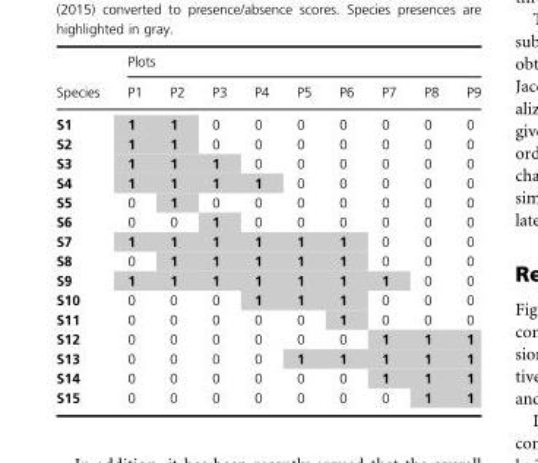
<table><thead><tr><td rowspan="2">Species</td><td colspan="9">Plots</td></tr><tr><td>P1</td><td>P2</td><td>P3</td><td>P4</td><td>P5</td><td>P6</td><td>P7</td><td>P8</td><td>P9</td></tr></thead><tbody><tr><td>S1</td><td>1</td><td>1</td><td>0</td><td>0</td><td>0</td><td>0</td><td>0</td><td>0</td><td>0</td></tr><tr><td>S2</td><td>1</td><td>1</td><td>0</td><td>0</td><td>0</td><td>0</td><td>0</td><td>0</td><td>0</td></tr><tr><td>S3</td><td>1</td><td>1</td><td>1</td><td>0</td><td>0</td><td>0</td><td>0</td><td>0</td><td>0</td></tr><tr><td>S4</td><td>1</td><td>1</td><td>1</td><td>1</td><td>0</td><td>0</td><td>0</td><td>0</td><td>0</td></tr><tr><td>S5</td><td>0</td><td>1</td><td>0</td><td>0</td><td>0</td><td>0</td><td>0</td><td>0</td><td>0</td></tr><tr><td>S6</td><td>0</td><td>0</td><td>1</td><td>0</td><td>0</td><td>0</td><td>0</td><td>0</td><td>0</td></tr><tr><td>S7</td><td>1</td><td>1</td><td>1</td><td>1</td><td>1</td><td>1</td><td>0</td><td>0</td><td>0</td></tr><tr><td>S8</td><td>0</td><td>1</td><td>1</td><td>1</td><td>1</td><td>1</td><td>0</td><td>0</td><td>0</td></tr><tr><td>S9</td><td>1</td><td>1</td><td>1</td><td>1</td><td>1</td><td>1</td><td>1</td><td>0</td><td>0</td></tr><tr><td>S10</td><td>0</td><td>0</td><td>0</td><td>1</td><td>1</td><td>1</td><td>0</td><td>0</td><td>0</td></tr><tr><td>S11</td><td>0</td><td>0</td><td>0</td><td>0</td><td>0</td><td>1</td><td>0</td><td>0</td><td>0</td></tr><tr><td>S12</td><td>0</td><td>0</td><td>0</td><td>0</td><td>0</td><td>0</td><td>1</td><td>1</td><td>1</td></tr><tr><td>S13</td><td>0</td><td>0</td><td>0</td><td>0</td><td>1</td><td>1</td><td>1</td><td>1</td><td>1</td></tr><tr><td>S14</td><td>0</td><td>0</td><td>0</td><td>0</td><td>0</td><td>0</td><td>1</td><td>1</td><td>1</td></tr><tr><td>S15</td><td>0</td><td>0</td><td>0</td><td>0</td><td>0</td><td>0</td><td>0</td><td>1</td><td>1</td></tr></tbody></table>